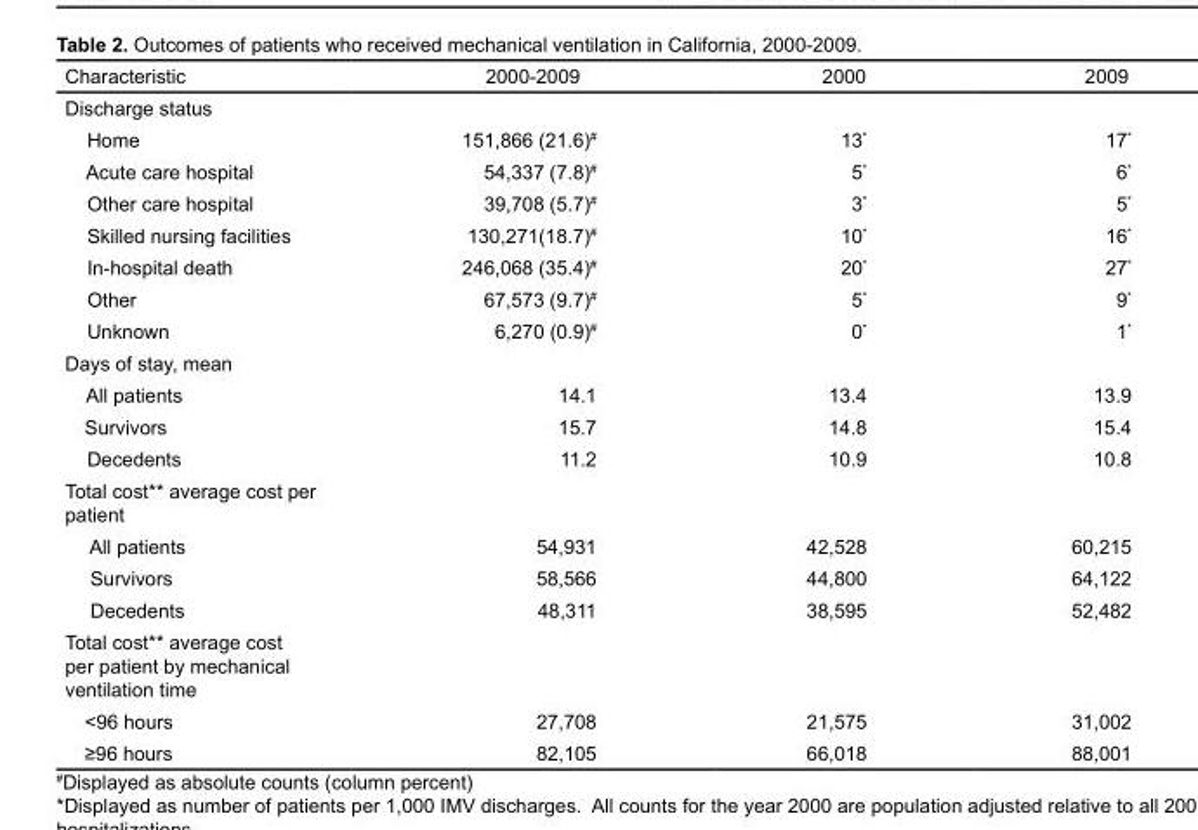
<table><thead><tr><td>Characteristic</td><td>2000-2009</td><td>2000</td><td>2009</td></tr></thead><tbody><tr><td colspan="4">Discharge status</td></tr><tr><td>Home</td><td>151,866 (21.6)#</td><td>13*</td><td>17*</td></tr><tr><td>Acute care hospital</td><td>54,337 (7.8)#</td><td>5*</td><td>6*</td></tr><tr><td>Other care hospital</td><td>39,708 (5.7)#</td><td>3*</td><td>5*</td></tr><tr><td>Skilled nursing facilities</td><td>130,271(18.7)#</td><td>10*</td><td>16*</td></tr><tr><td>In-hospital death</td><td>246,068 (35.4)#</td><td>20*</td><td>27*</td></tr><tr><td>Other</td><td>67,573 (9.7)#</td><td>5*</td><td>9*</td></tr><tr><td>Unknown</td><td>6,270 (0.9)#</td><td>0*</td><td>1*</td></tr><tr><td colspan="4">Days of stay, mean</td></tr><tr><td>All patients</td><td>14.1</td><td>13.4</td><td>13.9</td></tr><tr><td>Survivors</td><td>15.7</td><td>14.8</td><td>15.4</td></tr><tr><td>Decedents</td><td>11.2</td><td>10.9</td><td>10.8</td></tr><tr><td colspan="4">Total cost** average cost per patient</td></tr><tr><td>All patients</td><td>54,931</td><td>42,528</td><td>60,215</td></tr><tr><td>Survivors</td><td>58,566</td><td>44,800</td><td>64,122</td></tr><tr><td>Decedents</td><td>48,311</td><td>38,595</td><td>52,482</td></tr><tr><td colspan="4">Total cost** average cost per patient by mechanical ventilation time</td></tr><tr><td>&lt;96 hours</td><td>27,708</td><td>21,575</td><td>31,002</td></tr><tr><td>≥96 hours</td><td>82,105</td><td>66,018</td><td>88,001</td></tr></tbody></table>